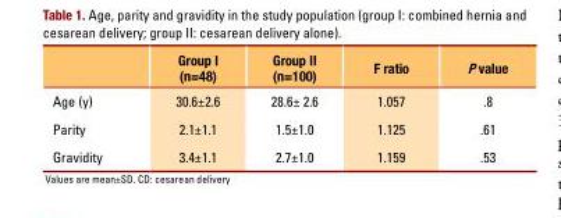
<table><thead><tr><td></td><td>Group I (n=48)</td><td>Group II (n=100)</td><td>F ratio</td><td>P value</td></tr></thead><tbody><tr><td>Age (y)</td><td>30.6±2.6</td><td>28.6± 2.6</td><td>1.057</td><td>.8</td></tr><tr><td>Parity</td><td>2.1±1.1</td><td>1.5±1.0</td><td>1.125</td><td>.61</td></tr><tr><td>Gravidity</td><td>3.4±1.1</td><td>2.7±1.0</td><td>1.159</td><td>.53</td></tr></tbody></table>